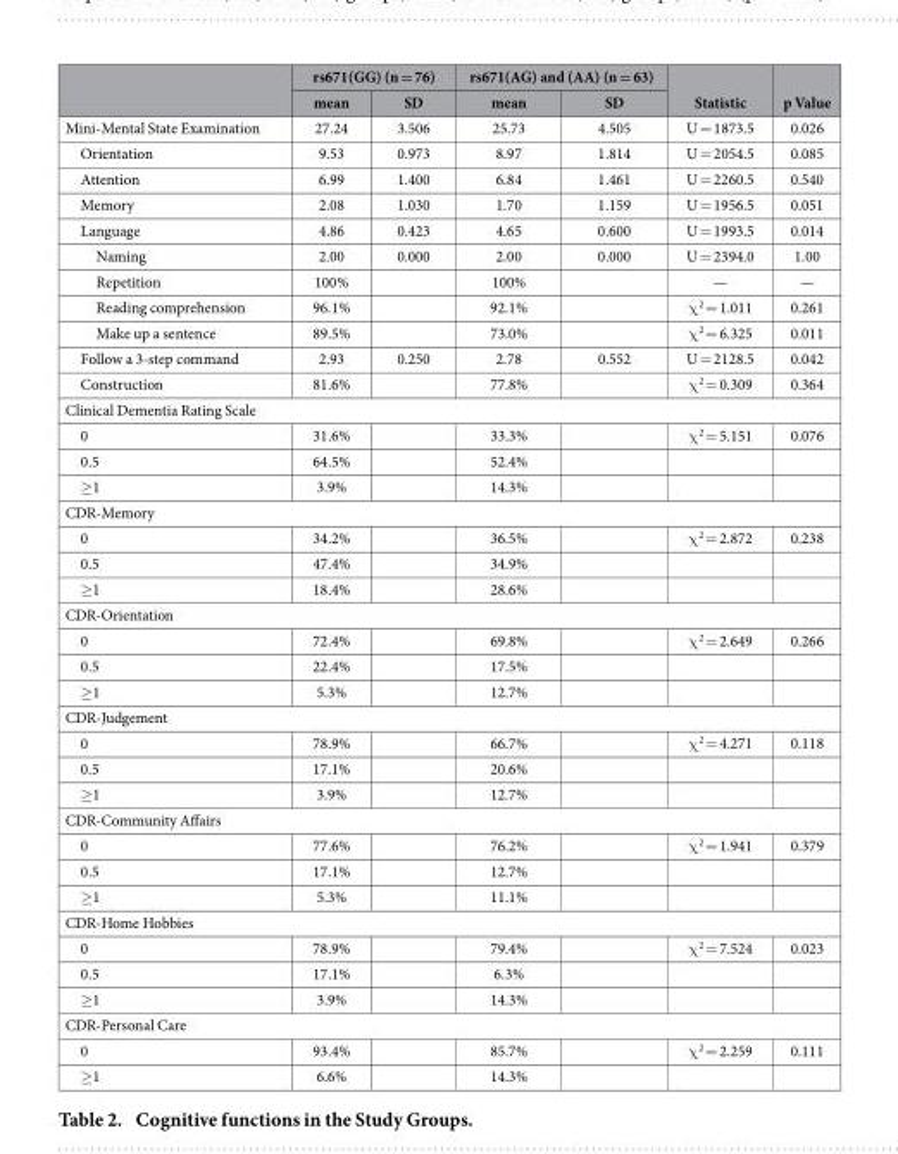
<table><thead><tr><td rowspan="2"></td><td colspan="2">rs671(GG) (n = 76)</td><td colspan="2">rs671(AG) and (AA) (n = 63)</td><td rowspan="2">Statistic</td><td rowspan="2">p Value</td></tr><tr><td>mean</td><td>SD</td><td>mean</td><td>SD</td></tr></thead><tbody><tr><td>Mini-Mental State Examination</td><td>27.24</td><td>3.506</td><td>25.73</td><td>4.505</td><td>U = 1873.5</td><td>0.026</td></tr><tr><td>Orientation</td><td>9.53</td><td>0.973</td><td>8.97</td><td>1.814</td><td>U = 2054.5</td><td>0.085</td></tr><tr><td>Attention</td><td>6.99</td><td>1.400</td><td>6.84</td><td>1.461</td><td>U = 2260.5</td><td>0.540</td></tr><tr><td>Memory</td><td>2.08</td><td>1.030</td><td>1.70</td><td>1.159</td><td>U = 1956.5</td><td>0.051</td></tr><tr><td>Language</td><td>4.86</td><td>0.423</td><td>4.65</td><td>0.600</td><td>U = 1993.5</td><td>0.014</td></tr><tr><td>Naming</td><td>2.00</td><td>0.000</td><td>2.00</td><td>0.000</td><td>U = 2394.0</td><td>1.00</td></tr><tr><td>Repetition</td><td>100%</td><td></td><td>100%</td><td></td><td>—</td><td>—</td></tr><tr><td>Reading comprehension</td><td>96.1%</td><td></td><td>92.1%</td><td></td><td>χ <sup>2</sup> = 1.011</td><td>0.261</td></tr><tr><td>Make up a sentence</td><td>89.5%</td><td></td><td>73.0%</td><td></td><td>χ <sup>2</sup> = 6.325</td><td>0.011</td></tr><tr><td>Follow a 3-step command</td><td>2.93</td><td>0.250</td><td>2.78</td><td>0.552</td><td>U = 2128.5</td><td>0.042</td></tr><tr><td>Construction</td><td>81.6%</td><td></td><td>77.8%</td><td></td><td>χ <sup>2</sup> = 0.309</td><td>0.364</td></tr><tr><td colspan="7">Clinical Dementia Rating Scale</td></tr><tr><td>0</td><td>31.6%</td><td></td><td>33.3%</td><td></td><td>χ <sup>2</sup> = 5.151</td><td>0.076</td></tr><tr><td>0.5</td><td>64.5%</td><td></td><td>52.4%</td><td></td><td></td><td></td></tr><tr><td>≥ 1</td><td>3.9%</td><td></td><td>14.3%</td><td></td><td></td><td></td></tr><tr><td colspan="7">CDR-Memory</td></tr><tr><td>0</td><td>34.2%</td><td></td><td>36.5%</td><td></td><td>χ <sup>2</sup> = 2.872</td><td>0.238</td></tr><tr><td>0.5</td><td>47.4%</td><td></td><td>34.9%</td><td></td><td></td><td></td></tr><tr><td>≥ 1</td><td>18.4%</td><td></td><td>28.6%</td><td></td><td></td><td></td></tr><tr><td colspan="7">CDR-Orientation</td></tr><tr><td>0</td><td>72.4%</td><td></td><td>69.8%</td><td></td><td>χ <sup>2</sup> = 2.649</td><td>0.266</td></tr><tr><td>0.5</td><td>22.4%</td><td></td><td>17.5%</td><td></td><td></td><td></td></tr><tr><td>≥ 1</td><td>5.3%</td><td></td><td>12.7%</td><td></td><td></td><td></td></tr><tr><td colspan="7">CDR-Judgement</td></tr><tr><td>0</td><td>78.9%</td><td></td><td>66.7%</td><td></td><td>χ <sup>2</sup> = 4.271</td><td>0.118</td></tr><tr><td>0.5</td><td>17.1%</td><td></td><td>20.6%</td><td></td><td></td><td></td></tr><tr><td>≥ 1</td><td>3.9%</td><td></td><td>12.7%</td><td></td><td></td><td></td></tr><tr><td colspan="7">CDR-Community Affairs</td></tr><tr><td>0</td><td>77.6%</td><td></td><td>76.2%</td><td></td><td>χ <sup>2</sup> = 1.941</td><td>0.379</td></tr><tr><td>0.5</td><td>17.1%</td><td></td><td>12.7%</td><td></td><td></td><td></td></tr><tr><td>≥ 1</td><td>5.3%</td><td></td><td>11.1%</td><td></td><td></td><td></td></tr><tr><td colspan="7">CDR-Home Hobbies</td></tr><tr><td>0</td><td>78.9%</td><td></td><td>79.4%</td><td></td><td>χ <sup>2</sup> = 7.524</td><td>0.023</td></tr><tr><td>0.5</td><td>17.1%</td><td></td><td>6.3%</td><td></td><td></td><td></td></tr><tr><td>≥ 1</td><td>3.9%</td><td></td><td>14.3%</td><td></td><td></td><td></td></tr><tr><td colspan="7">CDR-Personal Care</td></tr><tr><td>0</td><td>93.4%</td><td></td><td>85.7%</td><td></td><td>χ <sup>2</sup> = 2.259</td><td>0.111</td></tr><tr><td>≥ 1</td><td>6.6%</td><td></td><td>14.3%</td><td></td><td></td><td></td></tr></tbody></table>